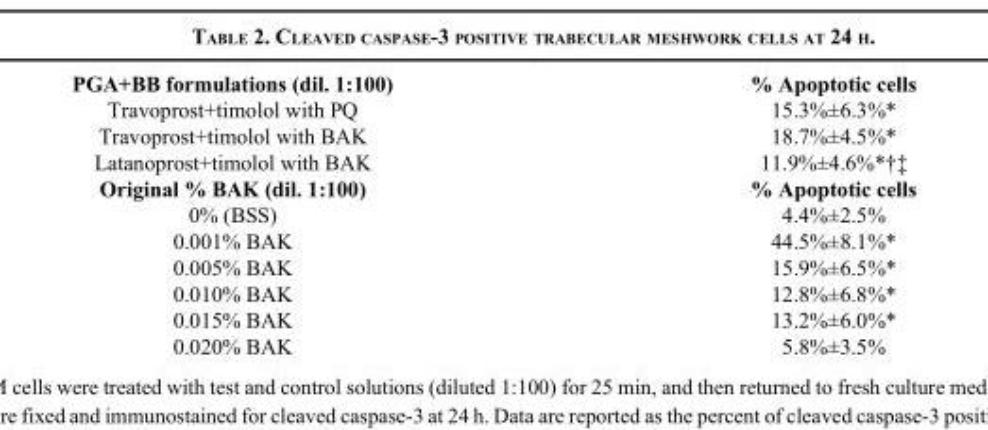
<table><thead><tr><td>PGA+BB formulations (dil. 1:100)</td><td>% Apoptotic cells</td></tr></thead><tbody><tr><td>Travoprost+timolol with PQ</td><td>15.3%±6.3%*</td></tr><tr><td>Travoprost+timolol with BAK</td><td>18.7%±4.5%*</td></tr><tr><td>Latanoprost+timolol with BAK</td><td>11.9%±4.6%*†‡</td></tr><tr><td>Original % BAK (dil. 1:100)</td><td>% Apoptotic cells</td></tr><tr><td>0% (BSS)</td><td>4.4%±2.5%</td></tr><tr><td>0.001% BAK</td><td>44.5%±8.1%*</td></tr><tr><td>0.005% BAK</td><td>15.9%±6.5%*</td></tr><tr><td>0.010% BAK</td><td>12.8%±6.8%*</td></tr><tr><td>0.015% BAK</td><td>13.2%±6.0%*</td></tr><tr><td>0.020% BAK</td><td>5.8%±3.5%</td></tr></tbody></table>